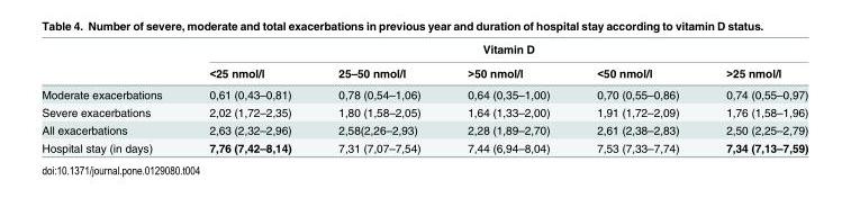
<table><thead><tr><td rowspan="2"></td><td colspan="5">Vitamin D</td></tr><tr><td>&lt;25 nmol/l</td><td>25–50 nmol/l</td><td>&gt;50 nmol/l</td><td>&lt;50 nmol/l</td><td>&gt;25 nmol/l</td></tr></thead><tbody><tr><td>Moderate exacerbations</td><td>0,61 (0,43–0,81)</td><td>0,78 (0,54–1,06)</td><td>0,64 (0,35–1,00)</td><td>0,70 (0,55–0,86)</td><td>0,74 (0,55–0,97)</td></tr><tr><td>Severe exacerbations</td><td>2,02 (1,72–2,35)</td><td>1,80 (1,58–2,05)</td><td>1,64 (1,33–2,00)</td><td>1,91 (1,72–2,09)</td><td>1,76 (1,58–1,96)</td></tr><tr><td>All exacerbations</td><td>2,63 (2,32–2,96)</td><td>2,58(2,26–2,93)</td><td>2,28 (1,89–2,70)</td><td>2,61 (2,38–2,83)</td><td>2,50 (2,25–2,79)</td></tr><tr><td>Hospital stay (in days)</td><td>7,76 (7,42–8,14)</td><td>7,31 (7,07–7,54)</td><td>7,44 (6,94–8,04)</td><td>7,53 (7,33–7,74)</td><td>7,34 (7,13–7,59)</td></tr></tbody></table>